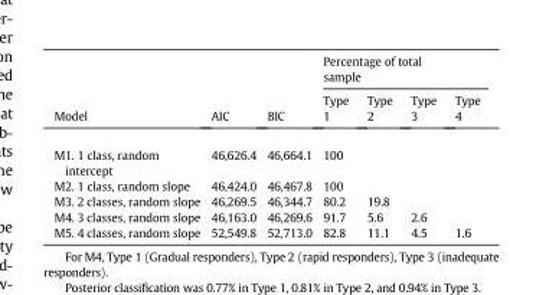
<table><thead><tr><td rowspan="2">Model</td><td rowspan="2">AIC</td><td rowspan="2">BIC</td><td colspan="3">Percentage of total sample</td><td rowspan="2">Type 4</td></tr><tr><td>Type 1</td><td>Type 2</td><td>Type 3</td></tr></thead><tbody><tr><td>M1. 1 class, random intercept</td><td>46,626.4</td><td>46,664.1</td><td>100</td><td></td><td></td><td></td></tr><tr><td>M2. 1 class, random slope</td><td>46,424.0</td><td>46,467.8</td><td>100</td><td></td><td></td><td></td></tr><tr><td>M3. 2 classes, random slope</td><td>46,269.5</td><td>46,344.7</td><td>80.2</td><td>19.8</td><td></td><td></td></tr><tr><td>M4. 3 classes, random slope</td><td>46,163.0</td><td>46,269.6</td><td>91.7</td><td>5.6</td><td>2.6</td><td></td></tr><tr><td>M5. 4 classes, random slope</td><td>52,549.8</td><td>52,713.0</td><td>82.8</td><td>11.1</td><td>4.5</td><td>1.6</td></tr></tbody></table>